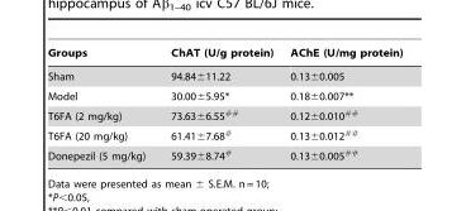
<table><thead><tr><td>Groups</td><td>ChAT (U/g protein)</td><td>AChE (U/mg protein)</td></tr></thead><tbody><tr><td>Sham</td><td>94.84±11.22</td><td>0.13±0.005</td></tr><tr><td>Model</td><td>30.00±5.95*</td><td>0.18±0.007**</td></tr><tr><td>T6FA (2 mg/kg)</td><td>73.63±6.55##</td><td>0.12±0.010##</td></tr><tr><td>T6FA (20 mg/kg)</td><td>61.41±7.68#</td><td>0.13±0.012##</td></tr><tr><td>Donepezil (5 mg/kg)</td><td>59.39±8.74#</td><td>0.13±0.005##</td></tr></tbody></table>